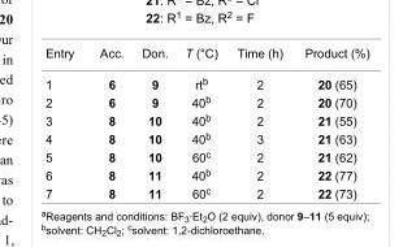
<table><tbody><tr><td>Entry</td><td>Acc.</td><td>Don.</td><td>T (°C)</td><td>Time (h)</td><td>Product (%)</td></tr><tr><td>1</td><td>6</td><td>9</td><td>rt<sup>b</sup></td><td>2</td><td>20 (65)</td></tr><tr><td>2</td><td>6</td><td>9</td><td>40<sup>b</sup></td><td>2</td><td>20 (70)</td></tr><tr><td>3</td><td>8</td><td>10</td><td>40<sup>b</sup></td><td>2</td><td>21 (55)</td></tr><tr><td>4</td><td>8</td><td>10</td><td>40<sup>b</sup></td><td>3</td><td>21 (63)</td></tr><tr><td>5</td><td>8</td><td>10</td><td>60<sup>c</sup></td><td>2</td><td>21 (62)</td></tr><tr><td>6</td><td>8</td><td>11</td><td>40<sup>b</sup></td><td>2</td><td>22 (77)</td></tr><tr><td>7</td><td>8</td><td>11</td><td>60<sup>c</sup></td><td>2</td><td>22 (73)</td></tr></tbody></table>